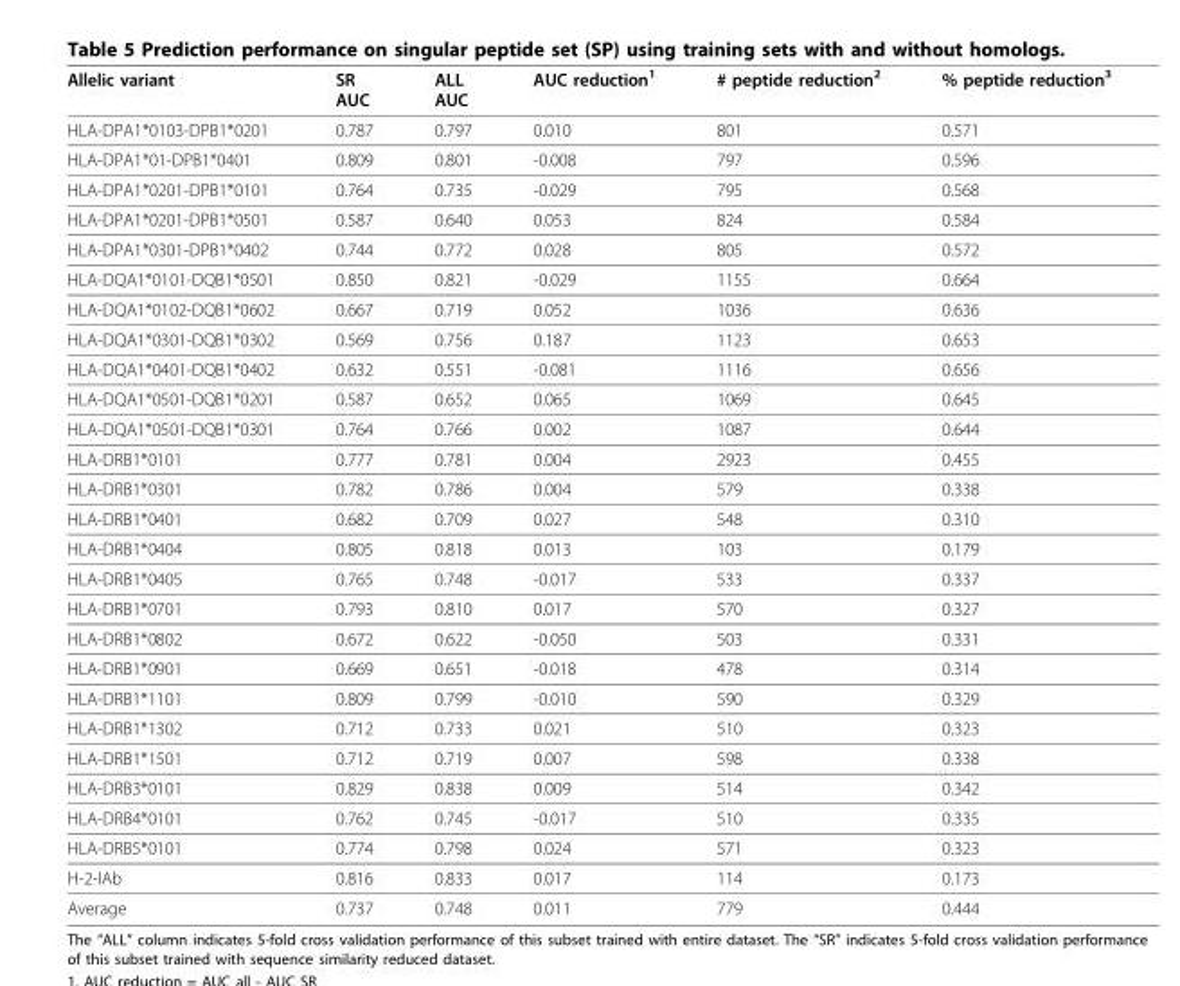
<table><thead><tr><td>Allelic variant</td><td>SR AUC</td><td>ALL AUC</td><td>AUC reduction<sup>1</sup></td><td># peptide reduction<sup>2</sup></td><td>% peptide reduction<sup>3</sup></td></tr></thead><tbody><tr><td>HLA-DPA1*0103-DPB1*0201</td><td>0.787</td><td>0.797</td><td>0.010</td><td>801</td><td>0.571</td></tr><tr><td>HLA-DPA1*01-DPB1*0401</td><td>0.809</td><td>0.801</td><td>-0.008</td><td>797</td><td>0.596</td></tr><tr><td>HLA-DPA1*0201-DPB1*0101</td><td>0.764</td><td>0.735</td><td>-0.029</td><td>795</td><td>0.568</td></tr><tr><td>HLA-DPA1*0201-DPB1*0501</td><td>0.587</td><td>0.640</td><td>0.053</td><td>824</td><td>0.584</td></tr><tr><td>HLA-DPA1*0301-DPB1*0402</td><td>0.744</td><td>0.772</td><td>0.028</td><td>805</td><td>0.572</td></tr><tr><td>HLA-DQA1*0101-DQB1*0501</td><td>0.850</td><td>0.821</td><td>-0.029</td><td>1155</td><td>0.664</td></tr><tr><td>HLA-DQA1*0102-DQB1*0602</td><td>0.667</td><td>0.719</td><td>0.052</td><td>1036</td><td>0.636</td></tr><tr><td>HLA-DQA1*0301-DQB1*0302</td><td>0.569</td><td>0.756</td><td>0.187</td><td>1123</td><td>0.653</td></tr><tr><td>HLA-DQA1*0401-DQB1*0402</td><td>0.632</td><td>0.551</td><td>-0.081</td><td>1116</td><td>0.656</td></tr><tr><td>HLA-DQA1*0501-DQB1*0201</td><td>0.587</td><td>0.652</td><td>0.065</td><td>1069</td><td>0.645</td></tr><tr><td>HLA-DQA1*0501-DQB1*0301</td><td>0.764</td><td>0.766</td><td>0.002</td><td>1087</td><td>0.644</td></tr><tr><td>HLA-DRB1*0101</td><td>0.777</td><td>0.781</td><td>0.004</td><td>2923</td><td>0.455</td></tr><tr><td>HLA-DRB1*0301</td><td>0.782</td><td>0.786</td><td>0.004</td><td>579</td><td>0.338</td></tr><tr><td>HLA-DRB1*0401</td><td>0.682</td><td>0.709</td><td>0.027</td><td>548</td><td>0.310</td></tr><tr><td>HLA-DRB1*0404</td><td>0.805</td><td>0.818</td><td>0.013</td><td>103</td><td>0.179</td></tr><tr><td>HLA-DRB1*0405</td><td>0.765</td><td>0.748</td><td>-0.017</td><td>533</td><td>0.337</td></tr><tr><td>HLA-DRB1*0701</td><td>0.793</td><td>0.810</td><td>0.017</td><td>570</td><td>0.327</td></tr><tr><td>HLA-DRB1*0802</td><td>0.672</td><td>0.622</td><td>-0.050</td><td>503</td><td>0.331</td></tr><tr><td>HLA-DRB1*0901</td><td>0.669</td><td>0.651</td><td>-0.018</td><td>478</td><td>0.314</td></tr><tr><td>HLA-DRB1*1101</td><td>0.809</td><td>0.799</td><td>-0.010</td><td>590</td><td>0.329</td></tr><tr><td>HLA-DRB1*1302</td><td>0.712</td><td>0.733</td><td>0.021</td><td>510</td><td>0.323</td></tr><tr><td>HLA-DRB1*1501</td><td>0.712</td><td>0.719</td><td>0.007</td><td>598</td><td>0.338</td></tr><tr><td>HLA-DRB3*0101</td><td>0.829</td><td>0.838</td><td>0.009</td><td>514</td><td>0.342</td></tr><tr><td>HLA-DRB4*0101</td><td>0.762</td><td>0.745</td><td>-0.017</td><td>510</td><td>0.335</td></tr><tr><td>HLA-DRB5*0101</td><td>0.774</td><td>0.798</td><td>0.024</td><td>571</td><td>0.323</td></tr><tr><td>H-2-IAb</td><td>0.816</td><td>0.833</td><td>0.017</td><td>114</td><td>0.173</td></tr><tr><td>Average</td><td>0.737</td><td>0.748</td><td>0.011</td><td>779</td><td>0.444</td></tr></tbody></table>